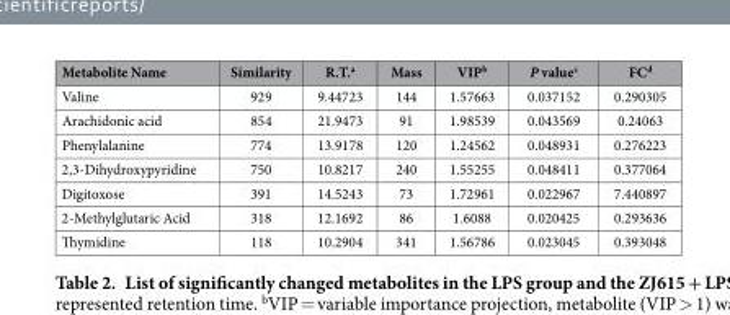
<table><thead><tr><td>Metabolite Name</td><td>Similarity</td><td>R.T.<sup>a</sup></td><td>Mass</td><td>VIP<sup>b</sup></td><td>P value<sup>c</sup></td><td>FC<sup>d</sup></td></tr></thead><tbody><tr><td>Valine</td><td>929</td><td>9.44723</td><td>144</td><td>1.57663</td><td>0.037152</td><td>0.290305</td></tr><tr><td>Arachidonic acid</td><td>854</td><td>21.9473</td><td>91</td><td>1.98539</td><td>0.043569</td><td>0.24063</td></tr><tr><td>Phenylalanine</td><td>774</td><td>13.9178</td><td>120</td><td>1.24562</td><td>0.048931</td><td>0.276223</td></tr><tr><td>2,3-Dihydroxypyridine</td><td>750</td><td>10.8217</td><td>240</td><td>1.55255</td><td>0.048411</td><td>0.377064</td></tr><tr><td>Digitoxose</td><td>391</td><td>14.5243</td><td>73</td><td>1.72961</td><td>0.022967</td><td>7.440897</td></tr><tr><td>2-Methylglutaric Acid</td><td>318</td><td>12.1692</td><td>86</td><td>1.6088</td><td>0.020425</td><td>0.293636</td></tr><tr><td>Thymidine</td><td>118</td><td>10.2904</td><td>341</td><td>1.56786</td><td>0.023045</td><td>0.393048</td></tr></tbody></table>